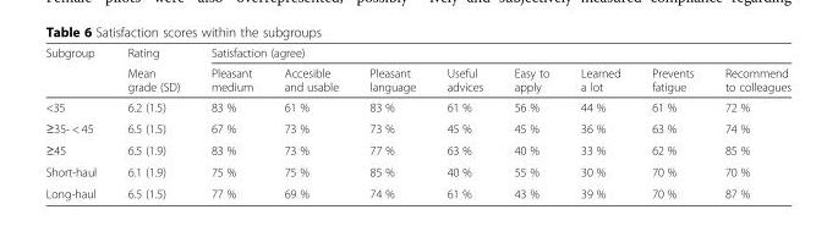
<table><thead><tr><td rowspan="2">Subgroup</td><td rowspan="2">Rating Mean grade (SD)</td><td colspan="8">Satisfaction (agree)</td></tr><tr><td>Pleasant medium</td><td>Accesible and usable</td><td>Pleasant language</td><td>Useful advices</td><td>Easy to apply</td><td>Learned a lot</td><td>Prevents fatigue</td><td>Recommend to colleagues</td></tr></thead><tbody><tr><td>&lt;35</td><td>6.2 (1.5)</td><td>83 %</td><td>61 %</td><td>83 %</td><td>61 %</td><td>56 %</td><td>44 %</td><td>61 %</td><td>72 %</td></tr><tr><td>≥35- &lt; 45</td><td>6.5 (1.5)</td><td>67 %</td><td>73 %</td><td>73 %</td><td>45 %</td><td>45 %</td><td>36 %</td><td>63 %</td><td>74 %</td></tr><tr><td>≥45</td><td>6.5 (1.9)</td><td>83 %</td><td>73 %</td><td>77 %</td><td>63 %</td><td>40 %</td><td>33 %</td><td>62 %</td><td>85 %</td></tr><tr><td>Short-haul</td><td>6.1 (1.9)</td><td>75 %</td><td>75 %</td><td>85 %</td><td>40 %</td><td>55 %</td><td>30 %</td><td>70 %</td><td>70 %</td></tr><tr><td>Long-haul</td><td>6.5 (1.5)</td><td>77 %</td><td>69 %</td><td>74 %</td><td>61 %</td><td>43 %</td><td>39 %</td><td>70 %</td><td>87 %</td></tr></tbody></table>